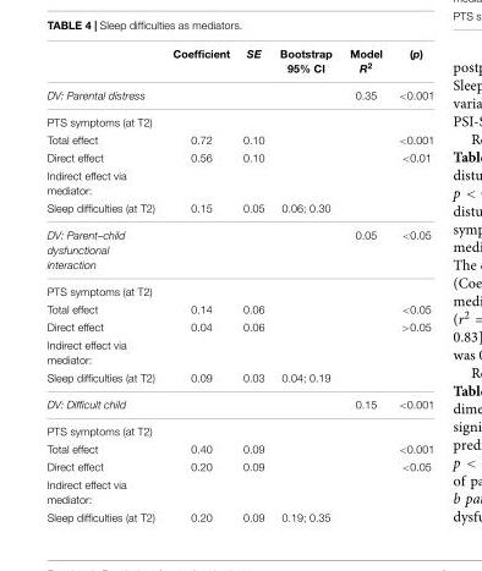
<table><thead><tr><td></td><td>Coefficient</td><td>SE</td><td>Bootstrap 95% CI</td><td>Model R<sup>2</sup></td><td>(p)</td></tr></thead><tbody><tr><td>DV: Parental distress</td><td></td><td></td><td></td><td>0.35</td><td>&lt;0.001</td></tr><tr><td colspan="6">PTS symptoms (at T2)</td></tr><tr><td>Total effect</td><td>0.72</td><td>0.10</td><td></td><td></td><td>&lt;0.001</td></tr><tr><td>Direct effect</td><td>0.56</td><td>0.10</td><td></td><td></td><td>&lt;0.01</td></tr><tr><td colspan="6">Indirect effect via mediator:</td></tr><tr><td>Sleep difficulties (at T2)</td><td>0.15</td><td>0.05</td><td>0.06; 0.30</td><td></td><td></td></tr><tr><td>DV: Parent–child dysfunctional interaction</td><td></td><td></td><td></td><td>0.05</td><td>&lt;0.05</td></tr><tr><td colspan="6">PTS symptoms (at T2)</td></tr><tr><td>Total effect</td><td>0.14</td><td>0.06</td><td></td><td></td><td>&lt;0.05</td></tr><tr><td>Direct effect</td><td>0.04</td><td>0.06</td><td></td><td></td><td>&gt;0.05</td></tr><tr><td colspan="6">Indirect effect via mediator:</td></tr><tr><td>Sleep difficulties (at T2)</td><td>0.09</td><td>0.03</td><td>0.04; 0.19</td><td></td><td></td></tr><tr><td>DV: Difficult child</td><td></td><td></td><td></td><td>0.15</td><td>&lt;0.001</td></tr><tr><td colspan="6">PTS symptoms (at T2)</td></tr><tr><td>Total effect</td><td>0.40</td><td>0.09</td><td></td><td></td><td>&lt;0.001</td></tr><tr><td>Direct effect</td><td>0.20</td><td>0.09</td><td></td><td></td><td>&lt;0.05</td></tr><tr><td colspan="6">Indirect effect via mediator:</td></tr><tr><td>Sleep difficulties (at T2)</td><td>0.20</td><td>0.09</td><td>0.19; 0.35</td><td></td><td></td></tr></tbody></table>